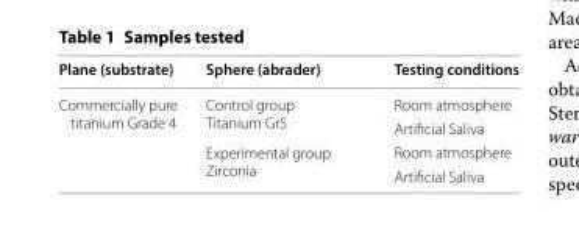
<table><thead><tr><td>Plane (substrate)</td><td>Sphere (abrader)</td><td>Testing conditions</td></tr></thead><tbody><tr><td rowspan="4">Commercially pure titanium Grade 4</td><td rowspan="2">Control group Titanium Gr5</td><td>Room atmosphere</td></tr><tr><td>Artificial Saliva</td></tr><tr><td rowspan="2">Experimental group Zirconia</td><td>Room atmosphere</td></tr><tr><td>Artificial Saliva</td></tr></tbody></table>